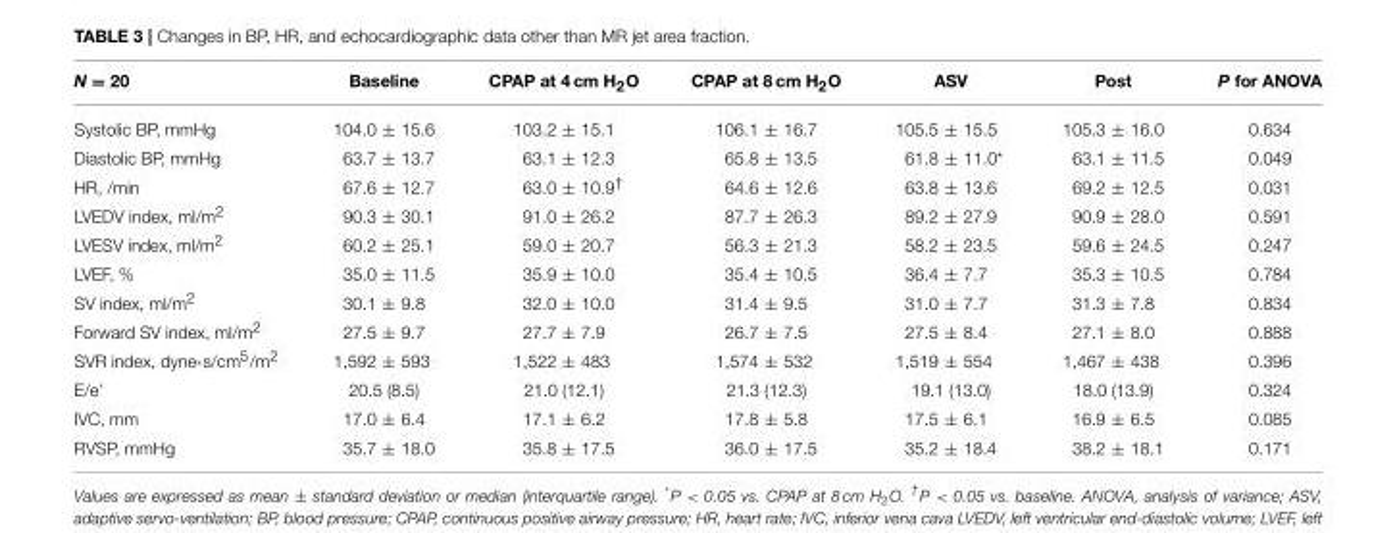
<table><thead><tr><td>N = 20</td><td>Baseline</td><td>CPAP at 4 cm H<sub>2</sub>O</td><td>CPAP at 8 cm H<sub>2</sub>O</td><td>ASV</td><td>Post</td><td>P for ANOVA</td></tr></thead><tbody><tr><td>Systolic BP, mmHg</td><td>104.0 ± 15.6</td><td>103.2 ± 15.1</td><td>106.1 ± 16.7</td><td>105.5 ± 15.5</td><td>105.3 ± 16.0</td><td>0.634</td></tr><tr><td>Diastolic BP, mmHg</td><td>63.7 ± 13.7</td><td>63.1 ± 12.3</td><td>65.8 ± 13.5</td><td>61.8 ± 11.0*</td><td>63.1 ± 11.5</td><td>0.049</td></tr><tr><td>HR, /min</td><td>67.6 ± 12.7</td><td>63.0 ± 10.9<sup>†</sup></td><td>64.6 ± 12.6</td><td>63.8 ± 13.6</td><td>69.2 ± 12.5</td><td>0.031</td></tr><tr><td>LVEDV index, ml/m<sup>2</sup></td><td>90.3 ± 30.1</td><td>91.0 ± 26.2</td><td>87.7 ± 26.3</td><td>89.2 ± 27.9</td><td>90.9 ± 28.0</td><td>0.591</td></tr><tr><td>LVESV index, ml/m<sup>2</sup></td><td>60.2 ± 25.1</td><td>59.0 ± 20.7</td><td>56.3 ± 21.3</td><td>58.2 ± 23.5</td><td>59.6 ± 24.5</td><td>0.247</td></tr><tr><td>LVEF, %</td><td>35.0 ± 11.5</td><td>35.9 ± 10.0</td><td>35.4 ± 10.5</td><td>36.4 ± 7.7</td><td>35.3 ± 10.5</td><td>0.784</td></tr><tr><td>SV index, ml/m<sup>2</sup></td><td>30.1 ± 9.8</td><td>32.0 ± 10.0</td><td>31.4 ± 9.5</td><td>31.0 ± 7.7</td><td>31.3 ± 7.8</td><td>0.834</td></tr><tr><td>Forward SV index, ml/m<sup>2</sup></td><td>27.5 ± 9.7</td><td>27.7 ± 7.9</td><td>26.7 ± 7.5</td><td>27.5 ± 8.4</td><td>27.1 ± 8.0</td><td>0.888</td></tr><tr><td>SVR index, dyne*s/cm<sup>5</sup>/m<sup>2</sup></td><td>1,592 ± 593</td><td>1,522 ± 483</td><td>1,574 ± 532</td><td>1,519 ± 554</td><td>1,467 ± 438</td><td>0.396</td></tr><tr><td>E/e’</td><td>20.5 (8.5)</td><td>21.0 (12.1)</td><td>21.3 (12.3)</td><td>19.1 (13.0)</td><td>18.0 (13.9)</td><td>0.324</td></tr><tr><td>IVC, mm</td><td>17.0 ± 6.4</td><td>17.1 ± 6.2</td><td>17.8 ± 5.8</td><td>17.5 ± 6.1</td><td>16.9 ± 6.5</td><td>0.085</td></tr><tr><td>RVSP, mmHg</td><td>35.7 ± 18.0</td><td>35.8 ± 17.5</td><td>36.0 ± 17.5</td><td>35.2 ± 18.4</td><td>38.2 ± 18.1</td><td>0.171</td></tr></tbody></table>